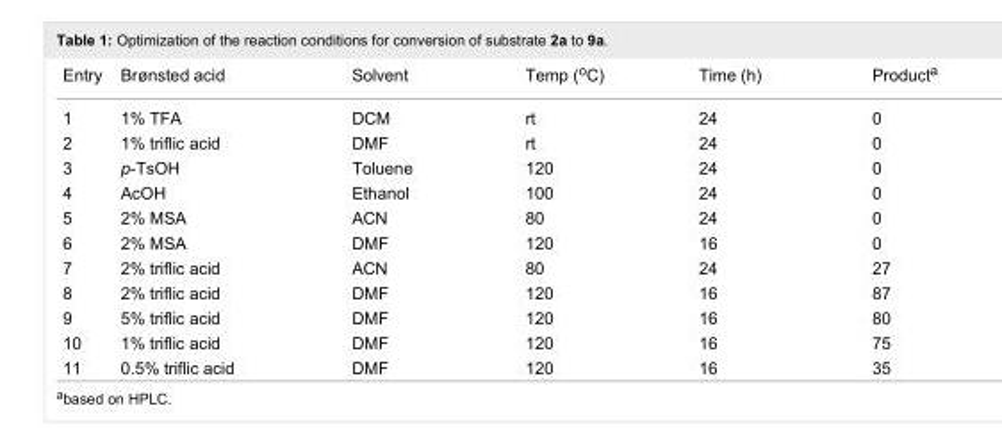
<table><tbody><tr><td>Entry</td><td>Brønsted acid</td><td>Solvent</td><td>Temp (<sup>o</sup>C)</td><td>Time (h)</td><td>Product<sup>a</sup></td></tr><tr><td>1</td><td>1% TFA</td><td>DCM</td><td>rt</td><td>24</td><td>0</td></tr><tr><td>2</td><td>1% triflic acid</td><td>DMF</td><td>rt</td><td>24</td><td>0</td></tr><tr><td>3</td><td>p-TsOH</td><td>Toluene</td><td>120</td><td>24</td><td>0</td></tr><tr><td>4</td><td>AcOH</td><td>Ethanol</td><td>100</td><td>24</td><td>0</td></tr><tr><td>5</td><td>2% MSA</td><td>ACN</td><td>80</td><td>24</td><td>0</td></tr><tr><td>6</td><td>2% MSA</td><td>DMF</td><td>120</td><td>16</td><td>0</td></tr><tr><td>7</td><td>2% triflic acid</td><td>ACN</td><td>80</td><td>24</td><td>27</td></tr><tr><td>8</td><td>2% triflic acid</td><td>DMF</td><td>120</td><td>16</td><td>87</td></tr><tr><td>9</td><td>5% triflic acid</td><td>DMF</td><td>120</td><td>16</td><td>80</td></tr><tr><td>10</td><td>1% triflic acid</td><td>DMF</td><td>120</td><td>16</td><td>75</td></tr><tr><td>11</td><td>0.5% triflic acid</td><td>DMF</td><td>120</td><td>16</td><td>35</td></tr></tbody></table>